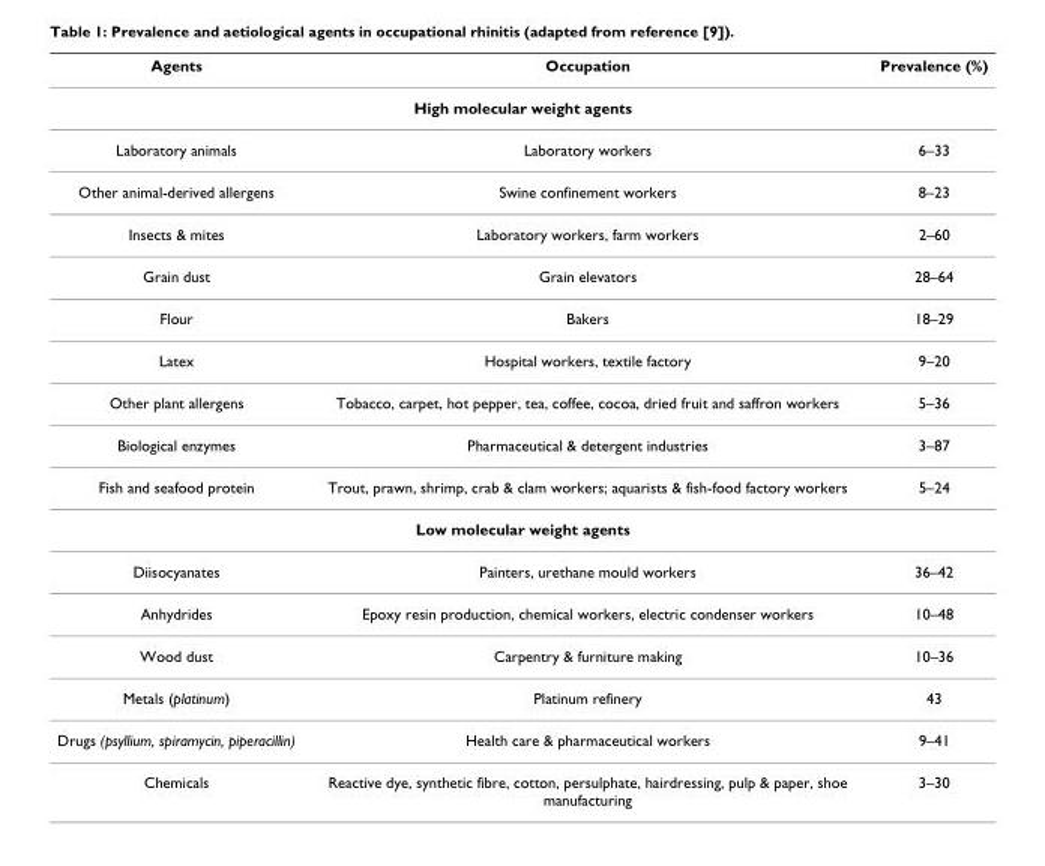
<table><thead><tr><td>Agents</td><td>Occupation</td><td>Prevalence (%)</td></tr></thead><tbody><tr><td colspan="3">High molecular weight agents</td></tr><tr><td>Laboratory animals</td><td>Laboratory workers</td><td>6–33</td></tr><tr><td>Other animal-derived allergens</td><td>Swine confinement workers</td><td>8–23</td></tr><tr><td>Insects &amp; mites</td><td>Laboratory workers, farm workers</td><td>2–60</td></tr><tr><td>Grain dust</td><td>Grain elevators</td><td>28–64</td></tr><tr><td>Flour</td><td>Bakers</td><td>18–29</td></tr><tr><td>Latex</td><td>Hospital workers, textile factory</td><td>9–20</td></tr><tr><td>Other plant allergens</td><td>Tobacco, carpet, hot pepper, tea, coffee, cocoa, dried fruit and saffron workers</td><td>5–36</td></tr><tr><td>Biological enzymes</td><td>Pharmaceutical &amp; detergent industries</td><td>3–87</td></tr><tr><td>Fish and seafood protein</td><td>Trout, prawn, shrimp, crab &amp; clam workers; aquarists &amp; fish-food factory workers</td><td>5–24</td></tr><tr><td colspan="3">Low molecular weight agents</td></tr><tr><td>Diisocyanates</td><td>Painters, urethane mould workers</td><td>36–42</td></tr><tr><td>Anhydrides</td><td>Epoxy resin production, chemical workers, electric condenser workers</td><td>10–48</td></tr><tr><td>Wood dust</td><td>Carpentry &amp; furniture making</td><td>10–36</td></tr><tr><td>Metals (platinum)</td><td>Platinum refinery</td><td>43</td></tr><tr><td>Drugs (psyllium, spiramycin, piperacillin)</td><td>Health care &amp; pharmaceutical workers</td><td>9–41</td></tr><tr><td>Chemicals</td><td>Reactive dye, synthetic fibre, cotton, persulphate, hairdressing, pulp &amp; paper, shoe manufacturing</td><td>3–30</td></tr></tbody></table>